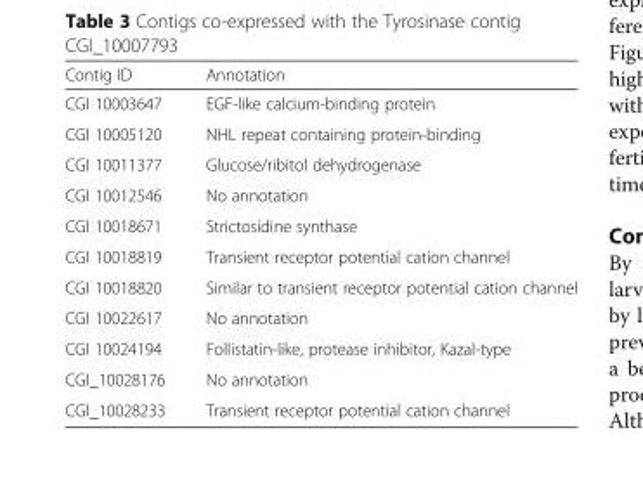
<table><thead><tr><td>Contig ID</td><td>Annotation</td></tr></thead><tbody><tr><td>CGI 10003647</td><td>EGF-like calcium-binding protein</td></tr><tr><td>CGI 10005120</td><td>NHL repeat containing protein-binding</td></tr><tr><td>CGI 10011377</td><td>Glucose/ribitol dehydrogenase</td></tr><tr><td>CGI 10012546</td><td>No annotation</td></tr><tr><td>CGI 10018671</td><td>Strictosidine synthase</td></tr><tr><td>CGI 10018819</td><td>Transient receptor potential cation channel</td></tr><tr><td>CGI 10018820</td><td>Similar to transient receptor potential cation channel</td></tr><tr><td>CGI 10022617</td><td>No annotation</td></tr><tr><td>CGI 10024194</td><td>Follistatin-like, protease inhibitor, Kazal-type</td></tr><tr><td>CGI_10028176</td><td>No annotation</td></tr><tr><td>CGI_10028233</td><td>Transient receptor potential cation channel</td></tr></tbody></table>